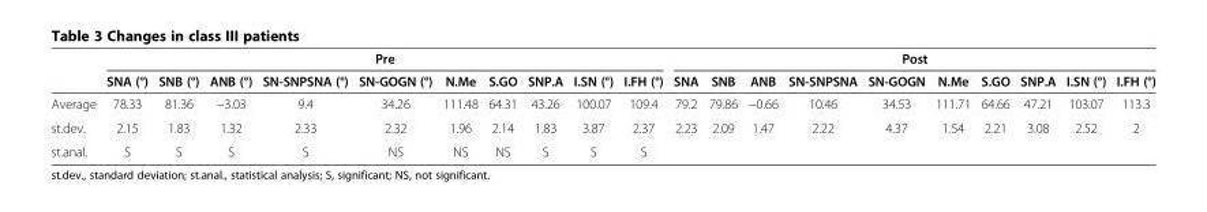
<table><thead><tr><td rowspan="2"></td><td colspan="10">Pre</td><td colspan="10">Post</td></tr><tr><td>SNA (°)</td><td>SNB (°)</td><td>ANB (°)</td><td>SN-SNPSNA (°)</td><td>SN-GOGN (°)</td><td>N.Me</td><td>S.GO</td><td>SNP.A</td><td>I.SN (°)</td><td>I.FH (°)</td><td>SNA</td><td>SNB</td><td>ANB</td><td>SN-SNPSNA</td><td>SN-GOGN</td><td>N.Me</td><td>S.GO</td><td>SNP.A</td><td>I.SN (°)</td><td>I.FH (°)</td></tr></thead><tbody><tr><td>Average</td><td>78.33</td><td>81.36</td><td>−3.03</td><td>9.4</td><td>34.26</td><td>111.48</td><td>64.31</td><td>43.26</td><td>100.07</td><td>109.4</td><td>79.2</td><td>79.86</td><td>−0.66</td><td>10.46</td><td>34.53</td><td>111.71</td><td>64.66</td><td>47.21</td><td>103.07</td><td>113.3</td></tr><tr><td>st.dev.</td><td>2.15</td><td>1.83</td><td>1.32</td><td>2.33</td><td>2.32</td><td>1.96</td><td>2.14</td><td>1.83</td><td>3.87</td><td>2.37</td><td>2.23</td><td>2.09</td><td>1.47</td><td>2.22</td><td>4.37</td><td>1.54</td><td>2.21</td><td>3.08</td><td>2.52</td><td>2</td></tr><tr><td>st.anal.</td><td>S</td><td>S</td><td>S</td><td>S</td><td>NS</td><td>NS</td><td>NS</td><td>S</td><td>S</td><td>S</td><td></td><td></td><td></td><td></td><td></td><td></td><td></td><td></td><td></td><td></td></tr></tbody></table>